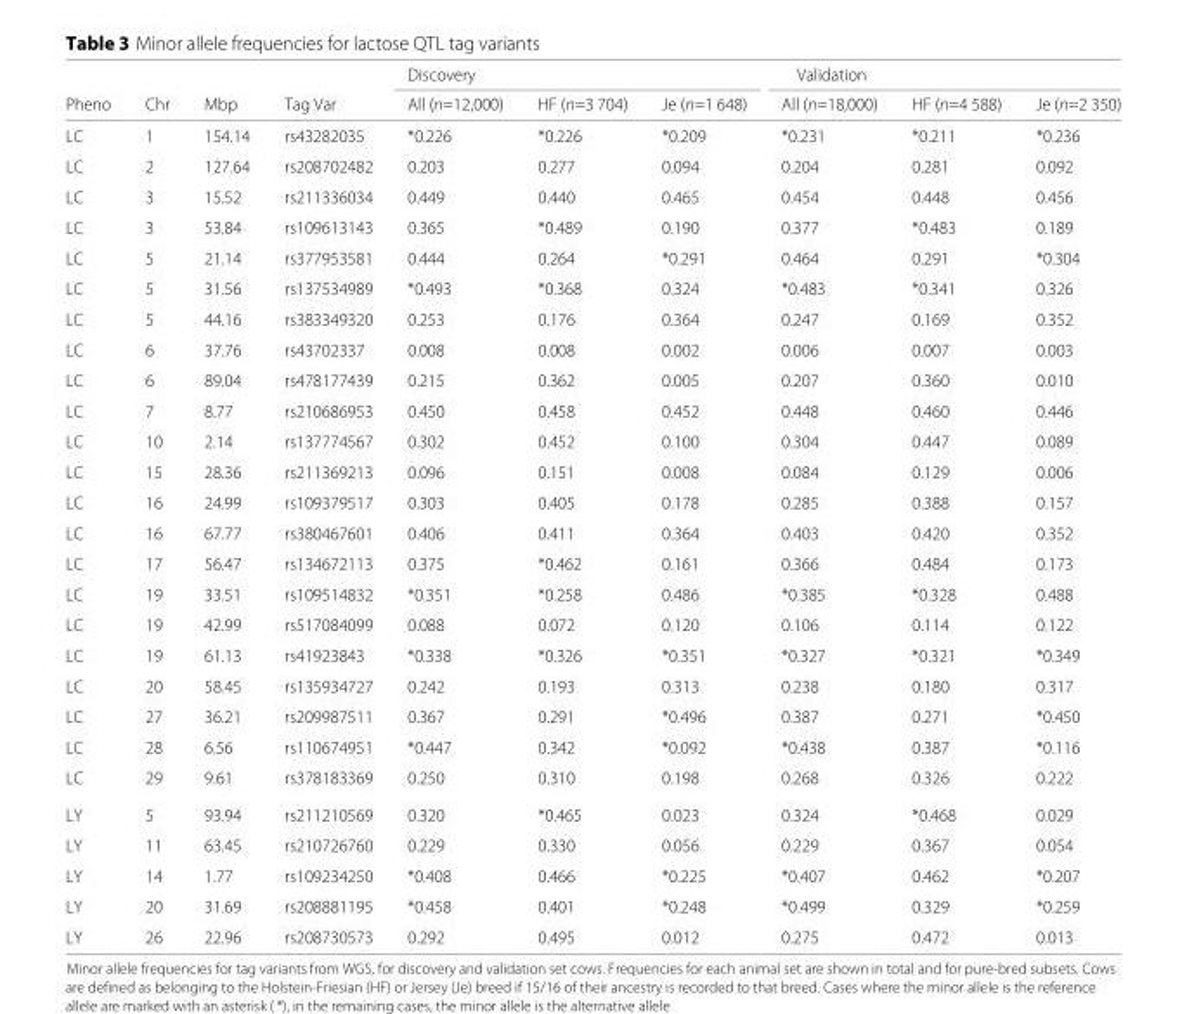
<table><thead><tr><td rowspan="2">Pheno</td><td rowspan="2">Chr</td><td rowspan="2">Mbp</td><td rowspan="2">Tag Var</td><td rowspan="2">Discovery All (n=12,000)</td><td rowspan="2">HF (n=3 704)</td><td colspan="3">Validation</td><td rowspan="2">Je (n=2 350)</td></tr><tr><td>Je (n=1 648)</td><td>All (n=18,000)</td><td>HF (n=4 588)</td></tr></thead><tbody><tr><td>LC</td><td>1</td><td>154.14</td><td>rs43282035</td><td>*0.226</td><td>*0.226</td><td>*0.209</td><td>*0.231</td><td>*0.211</td><td>*0.236</td></tr><tr><td>LC</td><td>2</td><td>127.64</td><td>rs208702482</td><td>0.203</td><td>0.277</td><td>0.094</td><td>0.204</td><td>0.281</td><td>0.092</td></tr><tr><td>LC</td><td>3</td><td>15.52</td><td>rs211336034</td><td>0.449</td><td>0.440</td><td>0.465</td><td>0.454</td><td>0.448</td><td>0.456</td></tr><tr><td>LC</td><td>3</td><td>53.84</td><td>rs109613143</td><td>0.365</td><td>*0.489</td><td>0.190</td><td>0.377</td><td>*0.483</td><td>0.189</td></tr><tr><td>LC</td><td>5</td><td>21.14</td><td>rs377953581</td><td>0.444</td><td>0.264</td><td>*0.291</td><td>0.464</td><td>0.291</td><td>*0.304</td></tr><tr><td>LC</td><td>5</td><td>31.56</td><td>rs137534989</td><td>*0.493</td><td>*0.368</td><td>0.324</td><td>*0.483</td><td>*0.341</td><td>0.326</td></tr><tr><td>LC</td><td>5</td><td>44.16</td><td>rs383349320</td><td>0.253</td><td>0.176</td><td>0.364</td><td>0.247</td><td>0.169</td><td>0.352</td></tr><tr><td>LC</td><td>6</td><td>37.76</td><td>rs43702337</td><td>0.008</td><td>0.008</td><td>0.002</td><td>0.006</td><td>0.007</td><td>0.003</td></tr><tr><td>LC</td><td>6</td><td>89.04</td><td>rs478177439</td><td>0.215</td><td>0.362</td><td>0.005</td><td>0.207</td><td>0.360</td><td>0.010</td></tr><tr><td>LC</td><td>7</td><td>8.77</td><td>rs210686953</td><td>0.450</td><td>0.458</td><td>0.452</td><td>0.448</td><td>0.460</td><td>0.446</td></tr><tr><td>LC</td><td>10</td><td>2.14</td><td>rs137774567</td><td>0.302</td><td>0.452</td><td>0.100</td><td>0.304</td><td>0.447</td><td>0.089</td></tr><tr><td>LC</td><td>15</td><td>28.36</td><td>rs211369213</td><td>0.096</td><td>0.151</td><td>0.008</td><td>0.084</td><td>0.129</td><td>0.006</td></tr><tr><td>LC</td><td>16</td><td>24.99</td><td>rs109379517</td><td>0.303</td><td>0.405</td><td>0.178</td><td>0.285</td><td>0.388</td><td>0.157</td></tr><tr><td>LC</td><td>16</td><td>67.77</td><td>rs380467601</td><td>0.406</td><td>0.411</td><td>0.364</td><td>0.403</td><td>0.420</td><td>0.352</td></tr><tr><td>LC</td><td>17</td><td>56.47</td><td>rs134672113</td><td>0.375</td><td>*0.462</td><td>0.161</td><td>0.366</td><td>0.484</td><td>0.173</td></tr><tr><td>LC</td><td>19</td><td>33.51</td><td>rs109514832</td><td>*0.351</td><td>*0.258</td><td>0.486</td><td>*0.385</td><td>*0.328</td><td>0.488</td></tr><tr><td>LC</td><td>19</td><td>42.99</td><td>rs517084099</td><td>0.088</td><td>0.072</td><td>0.120</td><td>0.106</td><td>0.114</td><td>0.122</td></tr><tr><td>LC</td><td>19</td><td>61.13</td><td>rs41923843</td><td>*0.338</td><td>*0.326</td><td>*0.351</td><td>*0.327</td><td>*0.321</td><td>*0.349</td></tr><tr><td>LC</td><td>20</td><td>58.45</td><td>rs135934727</td><td>0.242</td><td>0.193</td><td>0.313</td><td>0.238</td><td>0.180</td><td>0.317</td></tr><tr><td>LC</td><td>27</td><td>36.21</td><td>rs209987511</td><td>0.367</td><td>0.291</td><td>*0.496</td><td>0.387</td><td>0.271</td><td>*0.450</td></tr><tr><td>LC</td><td>28</td><td>6.56</td><td>rs110674951</td><td>*0.447</td><td>0.342</td><td>*0.092</td><td>*0.438</td><td>0.387</td><td>*0.116</td></tr><tr><td>LC</td><td>29</td><td>9.61</td><td>rs378183369</td><td>0.250</td><td>0.310</td><td>0.198</td><td>0.268</td><td>0.326</td><td>0.222</td></tr><tr><td>LY</td><td>5</td><td>93.94</td><td>rs211210569</td><td>0.320</td><td>*0.465</td><td>0.023</td><td>0.324</td><td>*0.468</td><td>0.029</td></tr><tr><td>LY</td><td>11</td><td>63.45</td><td>rs210726760</td><td>0.229</td><td>0.330</td><td>0.056</td><td>0.229</td><td>0.367</td><td>0.054</td></tr><tr><td>LY</td><td>14</td><td>1.77</td><td>rs109234250</td><td>*0.408</td><td>0.466</td><td>*0.225</td><td>*0.407</td><td>0.462</td><td>*0.207</td></tr><tr><td>LY</td><td>20</td><td>31.69</td><td>rs208881195</td><td>*0.458</td><td>0.401</td><td>*0.248</td><td>*0.499</td><td>0.329</td><td>*0.259</td></tr><tr><td>LY</td><td>26</td><td>22.96</td><td>rs208730573</td><td>0.292</td><td>0.495</td><td>0.012</td><td>0.275</td><td>0.472</td><td>0.013</td></tr></tbody></table>